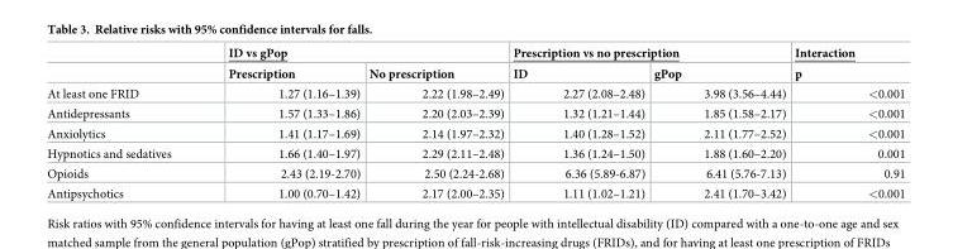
<table><thead><tr><td rowspan="2"></td><td colspan="2">ID vs gPop</td><td colspan="2">Prescription vs no prescription</td><td rowspan="2">Interaction p</td></tr><tr><td>Prescription</td><td>No prescription</td><td>ID</td><td>gPop</td></tr></thead><tbody><tr><td>At least one FRID</td><td>1.27 (1.16–1.39)</td><td>2.22 (1.98–2.49)</td><td>2.27 (2.08–2.48)</td><td>3.98 (3.56–4.44)</td><td>&lt;0.001</td></tr><tr><td>Antidepressants</td><td>1.57 (1.33–1.86)</td><td>2.20 (2.03–2.39)</td><td>1.32 (1.21–1.44)</td><td>1.85 (1.58–2.17)</td><td>&lt;0.001</td></tr><tr><td>Anxiolytics</td><td>1.41 (1.17–1.69)</td><td>2.14 (1.97–2.32)</td><td>1.40 (1.28–1.52)</td><td>2.11 (1.77–2.52)</td><td>&lt;0.001</td></tr><tr><td>Hypnotics and sedatives</td><td>1.66 (1.40–1.97)</td><td>2.29 (2.11–2.48)</td><td>1.36 (1.24–1.50)</td><td>1.88 (1.60–2.20)</td><td>0.001</td></tr><tr><td>Opioids</td><td>2.43 (2.19-2.70)</td><td>2.50 (2.24-2.68)</td><td>6.36 (5.89-6.87)</td><td>6.41 (5.76-7.13)</td><td>0.91</td></tr><tr><td>Antipsychotics</td><td>1.00 (0.70–1.42)</td><td>2.17 (2.00–2.35)</td><td>1.11 (1.02–1.21)</td><td>2.41 (1.70–3.42)</td><td>&lt;0.001</td></tr></tbody></table>